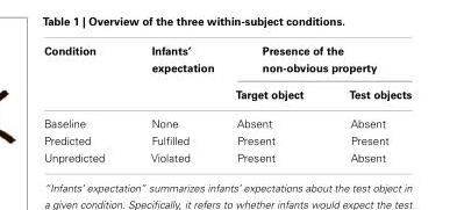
<table><thead><tr><td rowspan="2">Condition</td><td rowspan="2">Infants’ expectation</td><td colspan="2">Presence of the non-obvious property</td></tr><tr><td>Target object</td><td>Test objects</td></tr></thead><tbody><tr><td>Baseline</td><td>None</td><td>Absent</td><td>Absent</td></tr><tr><td>Predicted</td><td>Fulfilled</td><td>Present</td><td>Present</td></tr><tr><td>Unpredicted</td><td>Violated</td><td>Present</td><td>Absent</td></tr></tbody></table>